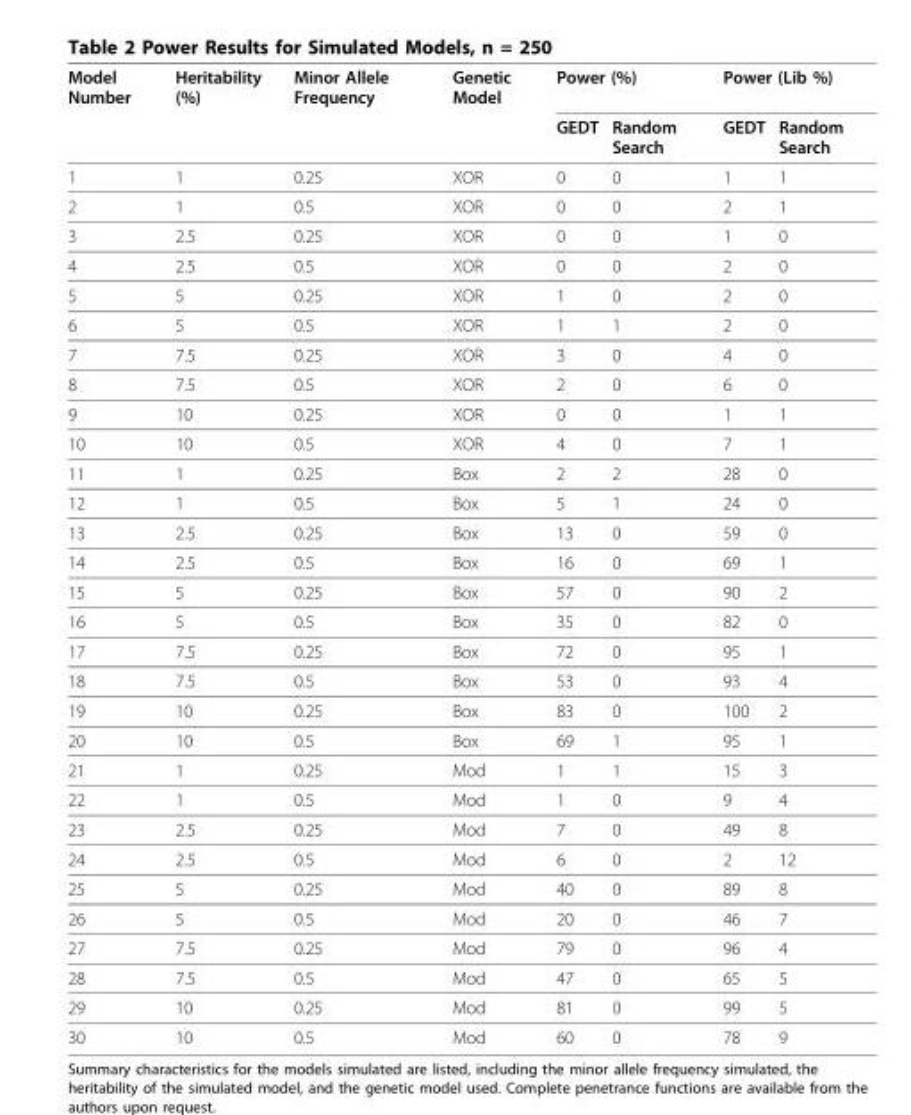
<table><thead><tr><td rowspan="2">Model Number</td><td rowspan="2">Heritability (%)</td><td rowspan="2">Minor Allele Frequency</td><td rowspan="2">Genetic Model</td><td colspan="2">Power (%)</td><td colspan="2">Power (Lib %)</td></tr><tr><td>GEDT</td><td>Random Search</td><td>GEDT</td><td>Random Search</td></tr></thead><tbody><tr><td>1</td><td>1</td><td>0.25</td><td>XOR</td><td>0</td><td>0</td><td>1</td><td>1</td></tr><tr><td>2</td><td>1</td><td>0.5</td><td>XOR</td><td>0</td><td>0</td><td>2</td><td>1</td></tr><tr><td>3</td><td>2.5</td><td>0.25</td><td>XOR</td><td>0</td><td>0</td><td>1</td><td>0</td></tr><tr><td>4</td><td>2.5</td><td>0.5</td><td>XOR</td><td>0</td><td>0</td><td>2</td><td>0</td></tr><tr><td>5</td><td>5</td><td>0.25</td><td>XOR</td><td>1</td><td>0</td><td>2</td><td>0</td></tr><tr><td>6</td><td>5</td><td>0.5</td><td>XOR</td><td>1</td><td>1</td><td>2</td><td>0</td></tr><tr><td>7</td><td>7.5</td><td>0.25</td><td>XOR</td><td>3</td><td>0</td><td>4</td><td>0</td></tr><tr><td>8</td><td>7.5</td><td>0.5</td><td>XOR</td><td>2</td><td>0</td><td>6</td><td>0</td></tr><tr><td>9</td><td>10</td><td>0.25</td><td>XOR</td><td>0</td><td>0</td><td>1</td><td>1</td></tr><tr><td>10</td><td>10</td><td>0.5</td><td>XOR</td><td>4</td><td>0</td><td>7</td><td>1</td></tr><tr><td>11</td><td>1</td><td>0.25</td><td>Box</td><td>2</td><td>2</td><td>28</td><td>0</td></tr><tr><td>12</td><td>1</td><td>0.5</td><td>Box</td><td>5</td><td>1</td><td>24</td><td>0</td></tr><tr><td>13</td><td>2.5</td><td>0.25</td><td>Box</td><td>13</td><td>0</td><td>59</td><td>0</td></tr><tr><td>14</td><td>2.5</td><td>0.5</td><td>Box</td><td>16</td><td>0</td><td>69</td><td>1</td></tr><tr><td>15</td><td>5</td><td>0.25</td><td>Box</td><td>57</td><td>0</td><td>90</td><td>2</td></tr><tr><td>16</td><td>5</td><td>0.5</td><td>Box</td><td>35</td><td>0</td><td>82</td><td>0</td></tr><tr><td>17</td><td>7.5</td><td>0.25</td><td>Box</td><td>72</td><td>0</td><td>95</td><td>1</td></tr><tr><td>18</td><td>7.5</td><td>0.5</td><td>Box</td><td>53</td><td>0</td><td>93</td><td>4</td></tr><tr><td>19</td><td>10</td><td>0.25</td><td>Box</td><td>83</td><td>0</td><td>100</td><td>2</td></tr><tr><td>20</td><td>10</td><td>0.5</td><td>Box</td><td>69</td><td>1</td><td>95</td><td>1</td></tr><tr><td>21</td><td>1</td><td>0.25</td><td>Mod</td><td>1</td><td>1</td><td>15</td><td>3</td></tr><tr><td>22</td><td>1</td><td>0.5</td><td>Mod</td><td>1</td><td>0</td><td>9</td><td>4</td></tr><tr><td>23</td><td>2.5</td><td>0.25</td><td>Mod</td><td>7</td><td>0</td><td>49</td><td>8</td></tr><tr><td>24</td><td>2.5</td><td>0.5</td><td>Mod</td><td>6</td><td>0</td><td>2</td><td>12</td></tr><tr><td>25</td><td>5</td><td>0.25</td><td>Mod</td><td>40</td><td>0</td><td>89</td><td>8</td></tr><tr><td>26</td><td>5</td><td>0.5</td><td>Mod</td><td>20</td><td>0</td><td>46</td><td>7</td></tr><tr><td>27</td><td>7.5</td><td>0.25</td><td>Mod</td><td>79</td><td>0</td><td>96</td><td>4</td></tr><tr><td>28</td><td>7.5</td><td>0.5</td><td>Mod</td><td>47</td><td>0</td><td>65</td><td>5</td></tr><tr><td>29</td><td>10</td><td>0.25</td><td>Mod</td><td>81</td><td>0</td><td>99</td><td>5</td></tr><tr><td>30</td><td>10</td><td>0.5</td><td>Mod</td><td>60</td><td>0</td><td>78</td><td>9</td></tr></tbody></table>